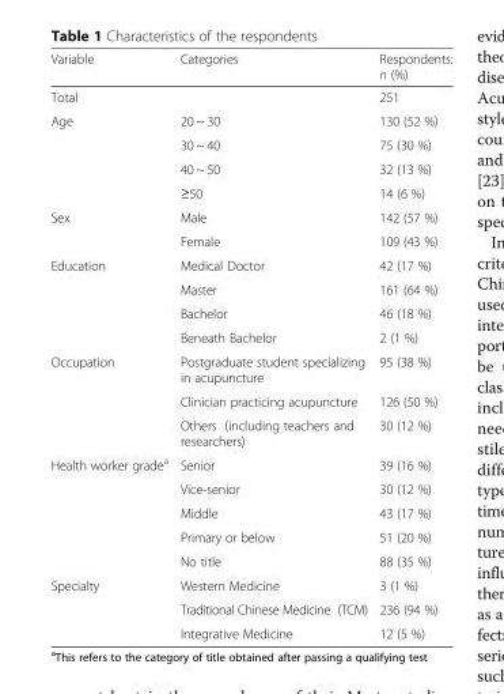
<table><thead><tr><td>Variable</td><td>Categories</td><td>Respondents: n (%)</td></tr></thead><tbody><tr><td>Total</td><td></td><td>251</td></tr><tr><td rowspan="4">Age</td><td>20 ~ 30</td><td>130 (52 %)</td></tr><tr><td>30 ~ 40</td><td>75 (30 %)</td></tr><tr><td>40 ~ 50</td><td>32 (13 %)</td></tr><tr><td>≥50</td><td>14 (6 %)</td></tr><tr><td rowspan="2">Sex</td><td>Male</td><td>142 (57 %)</td></tr><tr><td>Female</td><td>109 (43 %)</td></tr><tr><td rowspan="4">Education</td><td>Medical Doctor</td><td>42 (17 %)</td></tr><tr><td>Master</td><td>161 (64 %)</td></tr><tr><td>Bachelor</td><td>46 (18 %)</td></tr><tr><td>Beneath Bachelor</td><td>2 (1 %)</td></tr><tr><td rowspan="3">Occupation</td><td>Postgraduate student specializing in acupuncture</td><td>95 (38 %)</td></tr><tr><td>Clinician practicing acupuncture</td><td>126 (50 %)</td></tr><tr><td>Others (including teachers and researchers)</td><td>30 (12 %)</td></tr><tr><td rowspan="5">Health worker grade<sup>a</sup></td><td>Senior</td><td>39 (16 %)</td></tr><tr><td>Vice-senior</td><td>30 (12 %)</td></tr><tr><td>Middle</td><td>43 (17 %)</td></tr><tr><td>Primary or below</td><td>51 (20 %)</td></tr><tr><td>No title</td><td>88 (35 %)</td></tr><tr><td rowspan="3">Specialty</td><td>Western Medicine</td><td>3 (1 %)</td></tr><tr><td>Traditional Chinese Medicine (TCM)</td><td>236 (94 %)</td></tr><tr><td>Integrative Medicine</td><td>12 (5 %)</td></tr></tbody></table>